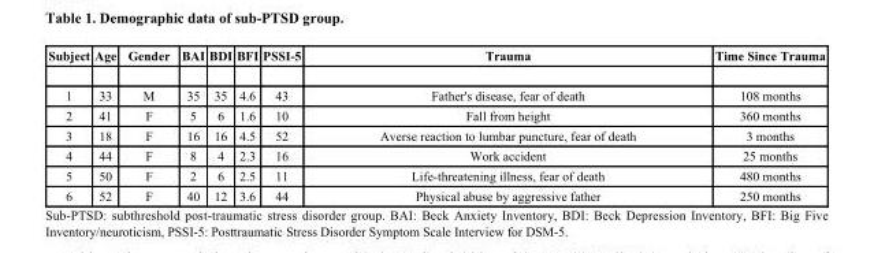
<table><thead><tr><td>Subject</td><td>Age</td><td>Gender</td><td>BAI</td><td>BDI</td><td>BFI</td><td>PSSI-5</td><td>Trauma</td><td>Time Since Trauma</td></tr></thead><tbody><tr><td>1</td><td>33</td><td>M</td><td>35</td><td>35</td><td>4.6</td><td>43</td><td>Father&#x27;s disease, fear of death</td><td>108 months</td></tr><tr><td>2</td><td>41</td><td>F</td><td>5</td><td>6</td><td>1.6</td><td>10</td><td>Fall from height</td><td>360 months</td></tr><tr><td>3</td><td>18</td><td>F</td><td>16</td><td>16</td><td>4.5</td><td>52</td><td>Averse reaction to lumbar puncture, fear of death</td><td>3 months</td></tr><tr><td>4</td><td>44</td><td>F</td><td>8</td><td>4</td><td>2.3</td><td>16</td><td>Work accident</td><td>25 months</td></tr><tr><td>5</td><td>50</td><td>F</td><td>2</td><td>6</td><td>2.5</td><td>11</td><td>Life-threatening illness, fear of death</td><td>480 months</td></tr><tr><td>6</td><td>52</td><td>F</td><td>40</td><td>12</td><td>3.6</td><td>44</td><td>Physical abuse by aggressive father</td><td>250 months</td></tr></tbody></table>